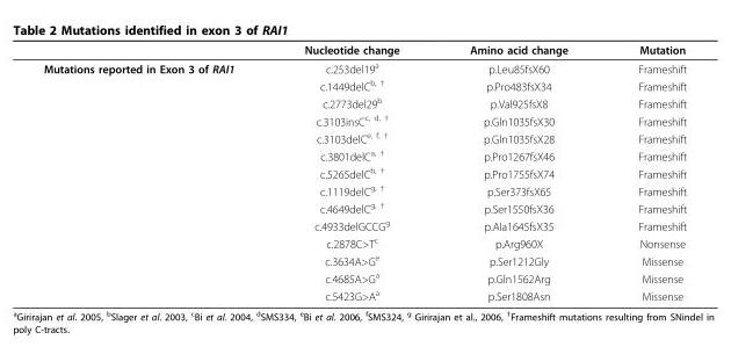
<table><thead><tr><td></td><td>Nucleotide change</td><td>Amino acid change</td><td>Mutation</td></tr></thead><tbody><tr><td rowspan="14">Mutations reported in Exon 3 of RAI1</td><td>c.253del19<sup>a</sup></td><td>p.Leu85fsX60</td><td>Frameshift</td></tr><tr><td>c.1449delC<sup>b, †</sup></td><td>p.Pro483fsX34</td><td>Frameshift</td></tr><tr><td>c.2773del29<sup>b</sup></td><td>p.Val925fsX8</td><td>Frameshift</td></tr><tr><td>c.3103insC<sup>c, d, †</sup></td><td>p.Gln1035fsX30</td><td>Frameshift</td></tr><tr><td>c.3103delC<sup>e, f, †</sup></td><td>p.Gln1035fsX28</td><td>Frameshift</td></tr><tr><td>c.3801delC<sup>a, †</sup></td><td>p.Pro1267fsX46</td><td>Frameshift</td></tr><tr><td>c.5265delC<sup>b, †</sup></td><td>p.Pro1755fsX74</td><td>Frameshift</td></tr><tr><td>c.1119delC<sup>g, †</sup></td><td>p.Ser373fsX65</td><td>Frameshift</td></tr><tr><td>c.4649delC<sup>g, †</sup></td><td>p.Ser1550fsX36</td><td>Frameshift</td></tr><tr><td>c.4933delGCCG<sup>g</sup></td><td>p.Ala1645fsX35</td><td>Frameshift</td></tr><tr><td>c.2878C&gt;T<sup>c</sup></td><td>p.Arg960X</td><td>Nonsense</td></tr><tr><td>c.3634A&gt;G<sup>e</sup></td><td>p.Ser1212Gly</td><td>Missense</td></tr><tr><td>c.4685A&gt;G<sup>a</sup></td><td>p.Gln1562Arg</td><td>Missense</td></tr><tr><td>c.5423G&gt;A<sup>a</sup></td><td>p.Ser1808Asn</td><td>Missense</td></tr></tbody></table>